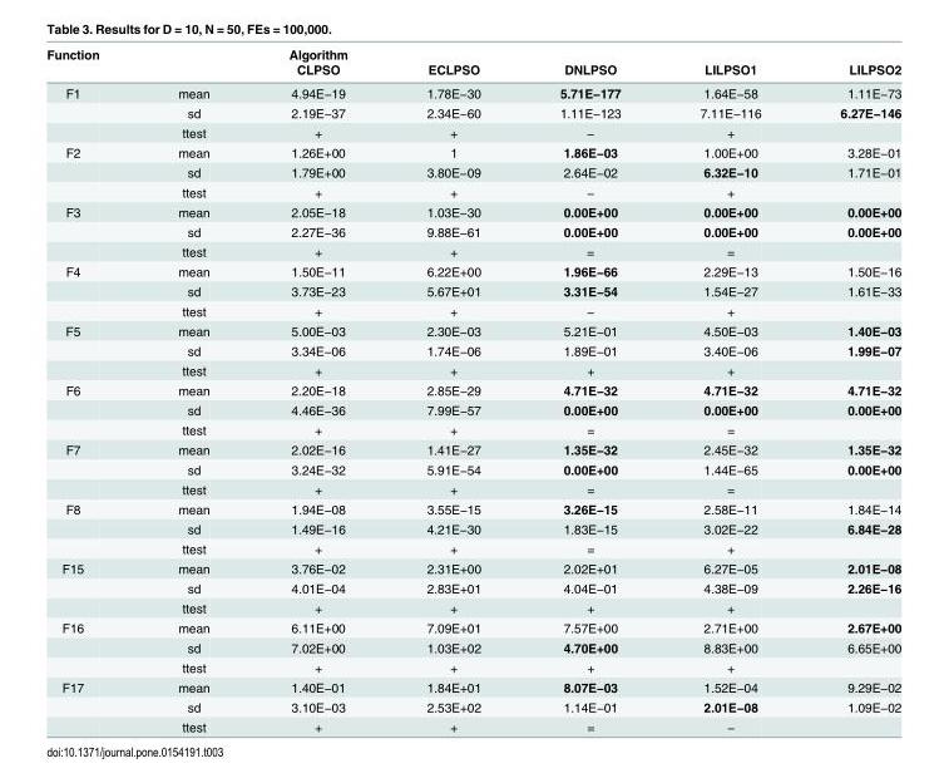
<table><thead><tr><td rowspan="2">Function</td><td rowspan="2"></td><td rowspan="2">Algorithm CLPSO</td><td rowspan="2">ECLPSO</td><td rowspan="2">DNLPSO</td><td rowspan="2">LILPSO1</td><td rowspan="2">LILPSO2</td></tr><tr></tr></thead><tbody><tr><td rowspan="3">F1</td><td>mean</td><td>4.94E−19</td><td>1.78E−30</td><td>5.71E−177</td><td>1.64E−58</td><td>1.11E−73</td></tr><tr><td>sd</td><td>2.19E−37</td><td>2.34E−60</td><td>1.11E−123</td><td>7.11E−116</td><td>6.27E−146</td></tr><tr><td>ttest</td><td>+</td><td>+</td><td>−</td><td>+</td><td></td></tr><tr><td rowspan="3">F2</td><td>mean</td><td>1.26E+00</td><td>1</td><td>1.86E−03</td><td>1.00E+00</td><td>3.28E−01</td></tr><tr><td>sd</td><td>1.79E+00</td><td>3.80E−09</td><td>2.64E−02</td><td>6.32E−10</td><td>1.71E−01</td></tr><tr><td>ttest</td><td>+</td><td>+</td><td>−</td><td>+</td><td></td></tr><tr><td rowspan="3">F3</td><td>mean</td><td>2.05E−18</td><td>1.03E−30</td><td>0.00E+00</td><td>0.00E+00</td><td>0.00E+00</td></tr><tr><td>sd</td><td>2.27E−36</td><td>9.88E−61</td><td>0.00E+00</td><td>0.00E+00</td><td>0.00E+00</td></tr><tr><td>ttest</td><td>+</td><td>+</td><td>=</td><td>=</td><td></td></tr><tr><td rowspan="3">F4</td><td>mean</td><td>1.50E−11</td><td>6.22E+00</td><td>1.96E−66</td><td>2.29E−13</td><td>1.50E−16</td></tr><tr><td>sd</td><td>3.73E−23</td><td>5.67E+01</td><td>3.31E−54</td><td>1.54E−27</td><td>1.61E−33</td></tr><tr><td>ttest</td><td>+</td><td>+</td><td>−</td><td>+</td><td></td></tr><tr><td rowspan="3">F5</td><td>mean</td><td>5.00E−03</td><td>2.30E−03</td><td>5.21E−01</td><td>4.50E−03</td><td>1.40E−03</td></tr><tr><td>sd</td><td>3.34E−06</td><td>1.74E−06</td><td>1.89E−01</td><td>3.40E−06</td><td>1.99E−07</td></tr><tr><td>ttest</td><td>+</td><td>+</td><td>+</td><td>+</td><td></td></tr><tr><td rowspan="3">F6</td><td>mean</td><td>2.20E−18</td><td>2.85E−29</td><td>4.71E−32</td><td>4.71E−32</td><td>4.71E−32</td></tr><tr><td>sd</td><td>4.46E−36</td><td>7.99E−57</td><td>0.00E+00</td><td>0.00E+00</td><td>0.00E+00</td></tr><tr><td>ttest</td><td>+</td><td>+</td><td>=</td><td>=</td><td></td></tr><tr><td rowspan="3">F7</td><td>mean</td><td>2.02E−16</td><td>1.41E−27</td><td>1.35E−32</td><td>2.45E−32</td><td>1.35E−32</td></tr><tr><td>sd</td><td>3.24E−32</td><td>5.91E−54</td><td>0.00E+00</td><td>1.44E−65</td><td>0.00E+00</td></tr><tr><td>ttest</td><td>+</td><td>+</td><td>=</td><td>=</td><td></td></tr><tr><td rowspan="3">F8</td><td>mean</td><td>1.94E−08</td><td>3.55E−15</td><td>3.26E−15</td><td>2.58E−11</td><td>1.84E−14</td></tr><tr><td>sd</td><td>1.49E−16</td><td>4.21E−30</td><td>1.83E−15</td><td>3.02E−22</td><td>6.84E−28</td></tr><tr><td>ttest</td><td>+</td><td>+</td><td>=</td><td>+</td><td></td></tr><tr><td rowspan="3">F15</td><td>mean</td><td>3.76E−02</td><td>2.31E+00</td><td>2.02E+01</td><td>6.27E−05</td><td>2.01E−08</td></tr><tr><td>sd</td><td>4.01E−04</td><td>2.83E+01</td><td>4.04E−01</td><td>4.38E−09</td><td>2.26E−16</td></tr><tr><td>ttest</td><td>+</td><td>+</td><td>+</td><td>+</td><td></td></tr><tr><td rowspan="3">F16</td><td>mean</td><td>6.11E+00</td><td>7.09E+01</td><td>7.57E+00</td><td>2.71E+00</td><td>2.67E+00</td></tr><tr><td>sd</td><td>7.02E+00</td><td>1.03E+02</td><td>4.70E+00</td><td>8.83E+00</td><td>6.65E+00</td></tr><tr><td>ttest</td><td>+</td><td>+</td><td>+</td><td>+</td><td></td></tr><tr><td rowspan="3">F17</td><td>mean</td><td>1.40E−01</td><td>1.84E+01</td><td>8.07E−03</td><td>1.52E−04</td><td>9.29E−02</td></tr><tr><td>sd</td><td>3.10E−03</td><td>2.53E+02</td><td>1.14E−01</td><td>2.01E−08</td><td>1.09E−02</td></tr><tr><td>ttest</td><td>+</td><td>+</td><td>=</td><td>−</td><td></td></tr></tbody></table>